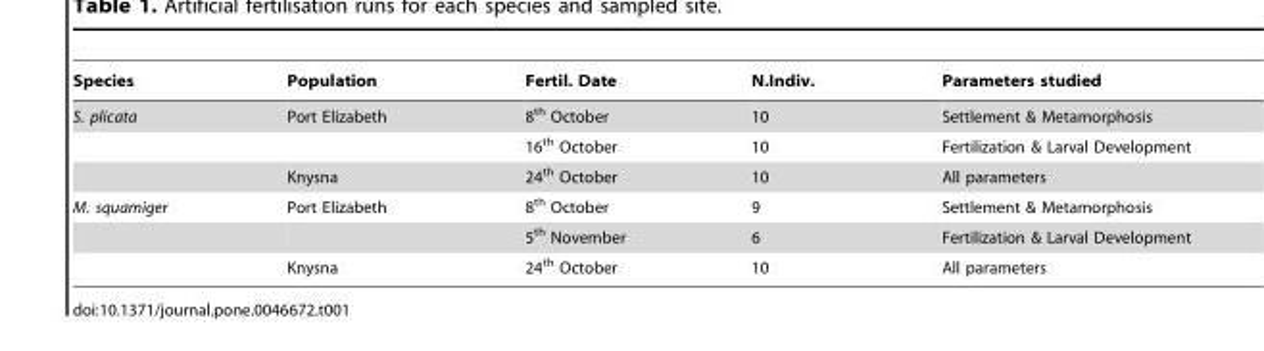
<table><thead><tr><td>Species</td><td>Population</td><td>Fertil. Date</td><td>N.Indiv.</td><td>Parameters studied</td></tr></thead><tbody><tr><td rowspan="3">S. plicata</td><td>Port Elizabeth</td><td>8<sup>th</sup> October</td><td>10</td><td>Settlement &amp; Metamorphosis</td></tr><tr><td></td><td>16<sup>th</sup> October</td><td>10</td><td>Fertilization &amp; Larval Development</td></tr><tr><td>Knysna</td><td>24<sup>th</sup> October</td><td>10</td><td>All parameters</td></tr><tr><td rowspan="3">M. squamiger</td><td>Port Elizabeth</td><td>8<sup>th</sup> October</td><td>9</td><td>Settlement &amp; Metamorphosis</td></tr><tr><td></td><td>5<sup>th</sup> November</td><td>6</td><td>Fertilization &amp; Larval Development</td></tr><tr><td>Knysna</td><td>24<sup>th</sup> October</td><td>10</td><td>All parameters</td></tr></tbody></table>